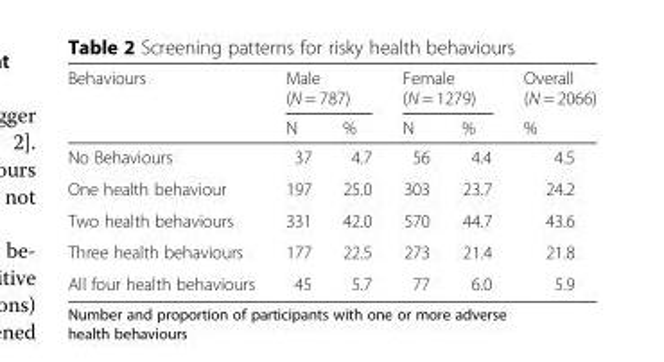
<table><thead><tr><td rowspan="2">Behaviours</td><td colspan="2">Male (N = 787)</td><td colspan="2">Female (N = 1279)</td><td rowspan="2">Overall (N = 2066) %</td></tr><tr><td>N</td><td>%</td><td>N</td><td>%</td></tr></thead><tbody><tr><td>No Behaviours</td><td>37</td><td>4.7</td><td>56</td><td>4.4</td><td>4.5</td></tr><tr><td>One health behaviour</td><td>197</td><td>25.0</td><td>303</td><td>23.7</td><td>24.2</td></tr><tr><td>Two health behaviours</td><td>331</td><td>42.0</td><td>570</td><td>44.7</td><td>43.6</td></tr><tr><td>Three health behaviours</td><td>177</td><td>22.5</td><td>273</td><td>21.4</td><td>21.8</td></tr><tr><td>All four health behaviours</td><td>45</td><td>5.7</td><td>77</td><td>6.0</td><td>5.9</td></tr></tbody></table>